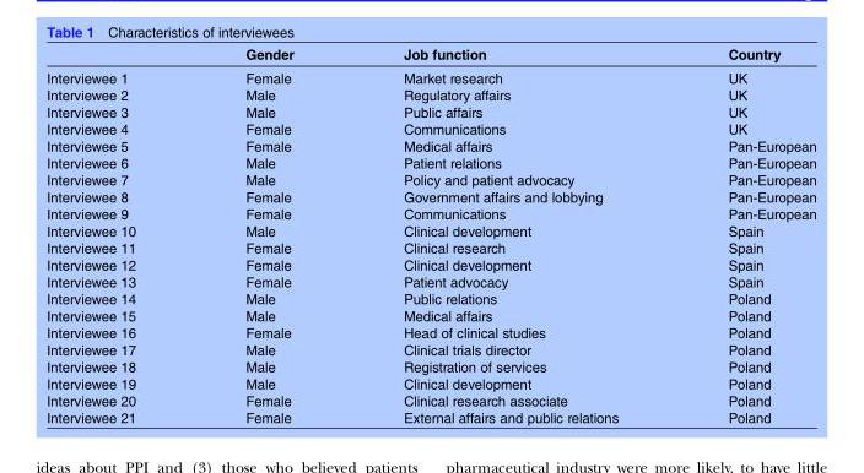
<table><thead><tr><td></td><td>Gender</td><td>Job function</td><td>Country</td></tr></thead><tbody><tr><td>Interviewee 1</td><td>Female</td><td>Market research</td><td>UK</td></tr><tr><td>Interviewee 2</td><td>Male</td><td>Regulatory affairs</td><td>UK</td></tr><tr><td>Interviewee 3</td><td>Male</td><td>Public affairs</td><td>UK</td></tr><tr><td>Interviewee 4</td><td>Female</td><td>Communications</td><td>UK</td></tr><tr><td>Interviewee 5</td><td>Female</td><td>Medical affairs</td><td>Pan-European</td></tr><tr><td>Interviewee 6</td><td>Male</td><td>Patient relations</td><td>Pan-European</td></tr><tr><td>Interviewee 7</td><td>Male</td><td>Policy and patient advocacy</td><td>Pan-European</td></tr><tr><td>Interviewee 8</td><td>Female</td><td>Government affairs and lobbying</td><td>Pan-European</td></tr><tr><td>Interviewee 9</td><td>Female</td><td>Communications</td><td>Pan-European</td></tr><tr><td>Interviewee 10</td><td>Male</td><td>Clinical development</td><td>Spain</td></tr><tr><td>Interviewee 11</td><td>Female</td><td>Clinical research</td><td>Spain</td></tr><tr><td>Interviewee 12</td><td>Female</td><td>Clinical development</td><td>Spain</td></tr><tr><td>Interviewee 13</td><td>Female</td><td>Patient advocacy</td><td>Spain</td></tr><tr><td>Interviewee 14</td><td>Male</td><td>Public relations</td><td>Poland</td></tr><tr><td>Interviewee 15</td><td>Male</td><td>Medical affairs</td><td>Poland</td></tr><tr><td>Interviewee 16</td><td>Female</td><td>Head of clinical studies</td><td>Poland</td></tr><tr><td>Interviewee 17</td><td>Male</td><td>Clinical trials director</td><td>Poland</td></tr><tr><td>Interviewee 18</td><td>Male</td><td>Registration of services</td><td>Poland</td></tr><tr><td>Interviewee 19</td><td>Male</td><td>Clinical development</td><td>Poland</td></tr><tr><td>Interviewee 20</td><td>Female</td><td>Clinical research associate</td><td>Poland</td></tr><tr><td>Interviewee 21</td><td>Female</td><td>External affairs and public relations</td><td>Poland</td></tr></tbody></table>